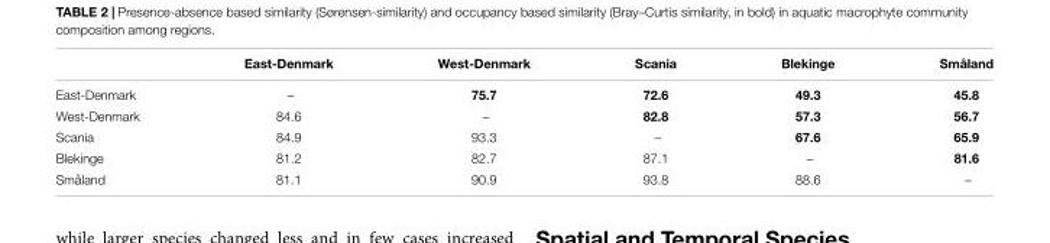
<table><thead><tr><td></td><td>East-Denmark</td><td>West-Denmark</td><td>Scania</td><td>Blekinge</td><td>Småland</td></tr></thead><tbody><tr><td>East-Denmark</td><td>–</td><td>75.7</td><td>72.6</td><td>49.3</td><td>45.8</td></tr><tr><td>West-Denmark</td><td>84.6</td><td>–</td><td>82.8</td><td>57.3</td><td>56.7</td></tr><tr><td>Scania</td><td>84.9</td><td>93.3</td><td>–</td><td>67.6</td><td>65.9</td></tr><tr><td>Blekinge</td><td>81.2</td><td>82.7</td><td>87.1</td><td>–</td><td>81.6</td></tr><tr><td>Småland</td><td>81.1</td><td>90.9</td><td>93.8</td><td>88.6</td><td>–</td></tr></tbody></table>